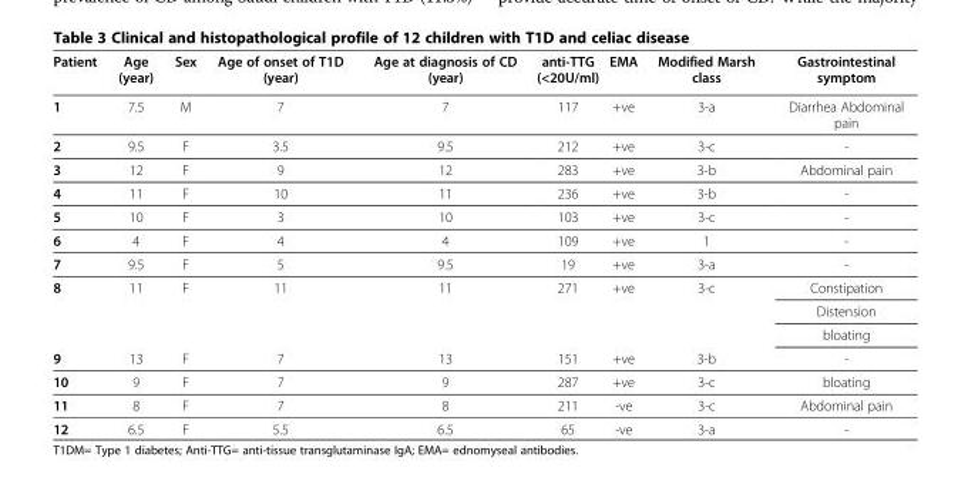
<table><thead><tr><td>Patient</td><td>Age (year)</td><td>Sex</td><td>Age of onset of T1D (year)</td><td>Age at diagnosis of CD (year)</td><td>anti-TTG (&lt;20U/ml)</td><td>EMA</td><td>Modified Marsh class</td><td>Gastrointestinal symptom</td></tr></thead><tbody><tr><td>1</td><td>7.5</td><td>M</td><td>7</td><td>7</td><td>117</td><td>+ve</td><td>3-a</td><td>Diarrhea Abdominal pain</td></tr><tr><td>2</td><td>9.5</td><td>F</td><td>3.5</td><td>9.5</td><td>212</td><td>+ve</td><td>3-c</td><td>-</td></tr><tr><td>3</td><td>12</td><td>F</td><td>9</td><td>12</td><td>283</td><td>+ve</td><td>3-b</td><td>Abdominal pain</td></tr><tr><td>4</td><td>11</td><td>F</td><td>10</td><td>11</td><td>236</td><td>+ve</td><td>3-b</td><td>-</td></tr><tr><td>5</td><td>10</td><td>F</td><td>3</td><td>10</td><td>103</td><td>+ve</td><td>3-c</td><td>-</td></tr><tr><td>6</td><td>4</td><td>F</td><td>4</td><td>4</td><td>109</td><td>+ve</td><td>1</td><td>-</td></tr><tr><td>7</td><td>9.5</td><td>F</td><td>5</td><td>9.5</td><td>19</td><td>+ve</td><td>3-a</td><td>-</td></tr><tr><td rowspan="3">8</td><td rowspan="3">11</td><td rowspan="3">F</td><td rowspan="3">11</td><td rowspan="3">11</td><td rowspan="3">271</td><td rowspan="3">+ve</td><td rowspan="3">3-c</td><td>Constipation</td></tr><tr><td>Distension</td></tr><tr><td>bloating</td></tr><tr><td>9</td><td>13</td><td>F</td><td>7</td><td>13</td><td>151</td><td>+ve</td><td>3-b</td><td>-</td></tr><tr><td>10</td><td>9</td><td>F</td><td>7</td><td>9</td><td>287</td><td>+ve</td><td>3-c</td><td>bloating</td></tr><tr><td>11</td><td>8</td><td>F</td><td>7</td><td>8</td><td>211</td><td>-ve</td><td>3-c</td><td>Abdominal pain</td></tr><tr><td>12</td><td>6.5</td><td>F</td><td>5.5</td><td>6.5</td><td>65</td><td>-ve</td><td>3-a</td><td>-</td></tr></tbody></table>